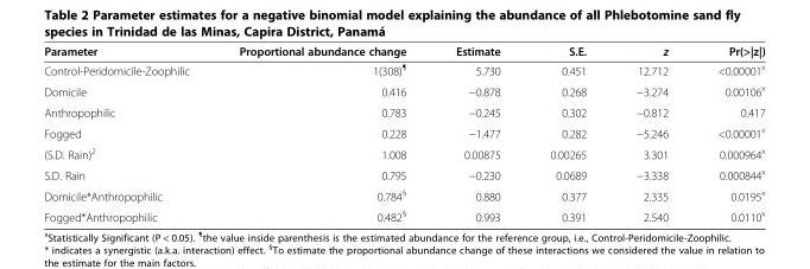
<table><thead><tr><td>Parameter</td><td>Proportional abundance change</td><td>Estimate</td><td>S.E.</td><td>z</td><td>Pr(&gt;|z|)</td></tr></thead><tbody><tr><td>Control-Peridomicile-Zoophilic</td><td>1(308)<sup>¶</sup></td><td>5.730</td><td>0.451</td><td>12.712</td><td>&lt;0.00001<sup>x</sup></td></tr><tr><td>Domicile</td><td>0.416</td><td>−0.878</td><td>0.268</td><td>−3.274</td><td>0.00106<sup>x</sup></td></tr><tr><td>Anthropophilic</td><td>0.783</td><td>−0.245</td><td>0.302</td><td>−0.812</td><td>0.417</td></tr><tr><td>Fogged</td><td>0.228</td><td>−1.477</td><td>0.282</td><td>−5.246</td><td>&lt;0.00001<sup>x</sup></td></tr><tr><td>(S.D. Rain)<sup>2</sup></td><td>1.008</td><td>0.00875</td><td>0.00265</td><td>3.301</td><td>0.000964<sup>x</sup></td></tr><tr><td>S.D. Rain</td><td>0.795</td><td>−0.230</td><td>0.0689</td><td>−3.338</td><td>0.000844<sup>x</sup></td></tr><tr><td>Domicile*Anthropophilic</td><td>0.784<sup>§</sup></td><td>0.880</td><td>0.377</td><td>2.335</td><td>0.0195<sup>x</sup></td></tr><tr><td>Fogged*Anthropophilic</td><td>0.482<sup>§</sup></td><td>0.993</td><td>0.391</td><td>2.540</td><td>0.0110<sup>x</sup></td></tr></tbody></table>